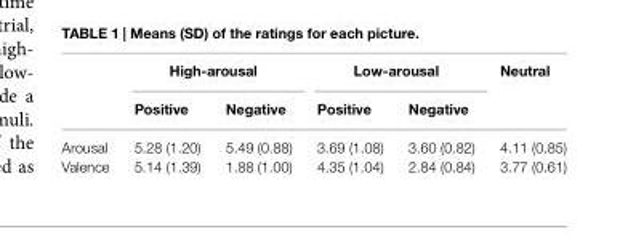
<table><thead><tr><td rowspan="2"></td><td colspan="2">High-arousal</td><td colspan="2">Low-arousal</td><td rowspan="2">Neutral</td></tr><tr><td>Positive</td><td>Negative</td><td>Positive</td><td>Negative</td></tr></thead><tbody><tr><td>Arousal</td><td>5.28 (1.20)</td><td>5.49 (0.88)</td><td>3.69 (1.08)</td><td>3.60 (0.82)</td><td>4.11 (0.85)</td></tr><tr><td>Valence</td><td>5.14 (1.39)</td><td>1.88 (1.00)</td><td>4.35 (1.04)</td><td>2.84 (0.84)</td><td>3.77 (0.61)</td></tr></tbody></table>